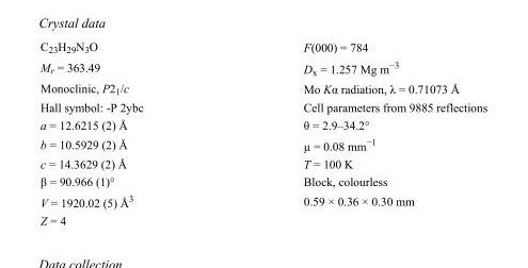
<table><tbody><tr><td>C<sub>23</sub>H<sub>29</sub>N<sub>3</sub>O</td><td>F(000) = 784</td></tr><tr><td>M<sub>r</sub> = 363.49</td><td>D<sub>x</sub> = 1.257 Mg m<sup>−3</sup></td></tr><tr><td>Monoclinic, P2<sub>1</sub>/c</td><td>Mo Kα radiation, λ = 0.71073 Å</td></tr><tr><td>Hall symbol: -P 2ybc</td><td>Cell parameters from 9885 reflections</td></tr><tr><td>a = 12.6215 (2) Å</td><td>θ = 2.9–34.2°</td></tr><tr><td>b = 10.5929 (2) Å</td><td>µ = 0.08 mm<sup>−1</sup></td></tr><tr><td>c = 14.3629 (2) Å</td><td>T = 100 K</td></tr><tr><td>β = 90.966 (1)°</td><td>Block, colourless</td></tr><tr><td>V = 1920.02 (5) Å<sup>3</sup></td><td>0.59 × 0.36 × 0.30 mm</td></tr><tr><td>Z = 4</td><td></td></tr></tbody></table>